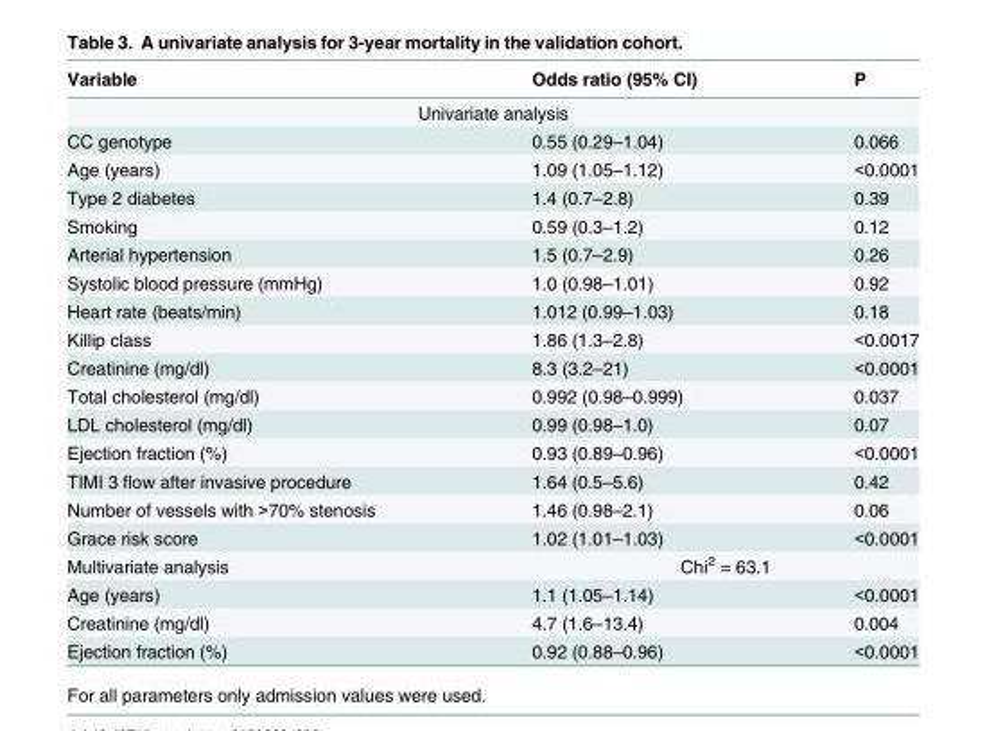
<table><thead><tr><td>Variable</td><td>Odds ratio (95% CI)</td><td>P</td></tr></thead><tbody><tr><td colspan="3">Univariate analysis</td></tr><tr><td>CC genotype</td><td>0.55 (0.29–1.04)</td><td>0.066</td></tr><tr><td>Age (years)</td><td>1.09 (1.05–1.12)</td><td>&lt;0.0001</td></tr><tr><td>Type 2 diabetes</td><td>1.4 (0.7–2.8)</td><td>0.39</td></tr><tr><td>Smoking</td><td>0.59 (0.3–1.2)</td><td>0.12</td></tr><tr><td>Arterial hypertension</td><td>1.5 (0.7–2.9)</td><td>0.26</td></tr><tr><td>Systolic blood pressure (mmHg)</td><td>1.0 (0.98–1.01)</td><td>0.92</td></tr><tr><td>Heart rate (beats/min)</td><td>1.012 (0.99–1.03)</td><td>0.18</td></tr><tr><td>Killip class</td><td>1.86 (1.3–2.8)</td><td>&lt;0.0017</td></tr><tr><td>Creatinine (mg/dl)</td><td>8.3 (3.2–21)</td><td>&lt;0.0001</td></tr><tr><td>Total cholesterol (mg/dl)</td><td>0.992 (0.98–0.999)</td><td>0.037</td></tr><tr><td>LDL cholesterol (mg/dl)</td><td>0.99 (0.98–1.0)</td><td>0.07</td></tr><tr><td>Ejection fraction (%)</td><td>0.93 (0.89–0.96)</td><td>&lt;0.0001</td></tr><tr><td>TIMI 3 flow after invasive procedure</td><td>1.64 (0.5–5.6)</td><td>0.42</td></tr><tr><td>Number of vessels with &gt;70% stenosis</td><td>1.46 (0.98–2.1)</td><td>0.06</td></tr><tr><td>Grace risk score</td><td>1.02 (1.01–1.03)</td><td>&lt;0.0001</td></tr><tr><td>Multivariate analysis</td><td colspan="2">Chi<sup>2</sup> = 63.1</td></tr><tr><td>Age (years)</td><td>1.1 (1.05–1.14)</td><td>&lt;0.0001</td></tr><tr><td>Creatinine (mg/dl)</td><td>4.7 (1.6–13.4)</td><td>0.004</td></tr><tr><td>Ejection fraction (%)</td><td>0.92 (0.88–0.96)</td><td>&lt;0.0001</td></tr></tbody></table>